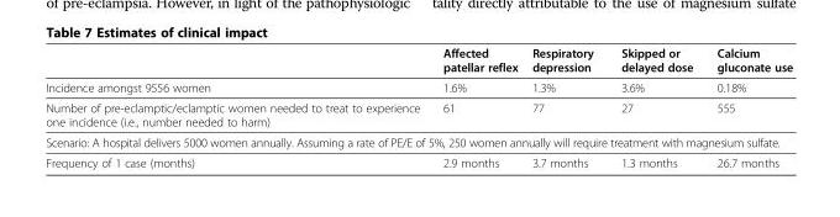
<table><thead><tr><td></td><td>Affected patellar reflex</td><td>Respiratory depression</td><td>Skipped or delayed dose</td><td>Calcium gluconate use</td></tr></thead><tbody><tr><td>Incidence amongst 9556 women</td><td>1.6%</td><td>1.3%</td><td>3.6%</td><td>0.18%</td></tr><tr><td>Number of pre-eclamptic/eclamptic women needed to treat to experience one incidence (i.e., number needed to harm)</td><td>61</td><td>77</td><td>27</td><td>555</td></tr><tr><td colspan="5">Scenario: A hospital delivers 5000 women annually. Assuming a rate of PE/E of 5%, 250 women annually will require treatment with magnesium sulfate.</td></tr><tr><td>Frequency of 1 case (months)</td><td>2.9 months</td><td>3.7 months</td><td>1.3 months</td><td>26.7 months</td></tr></tbody></table>